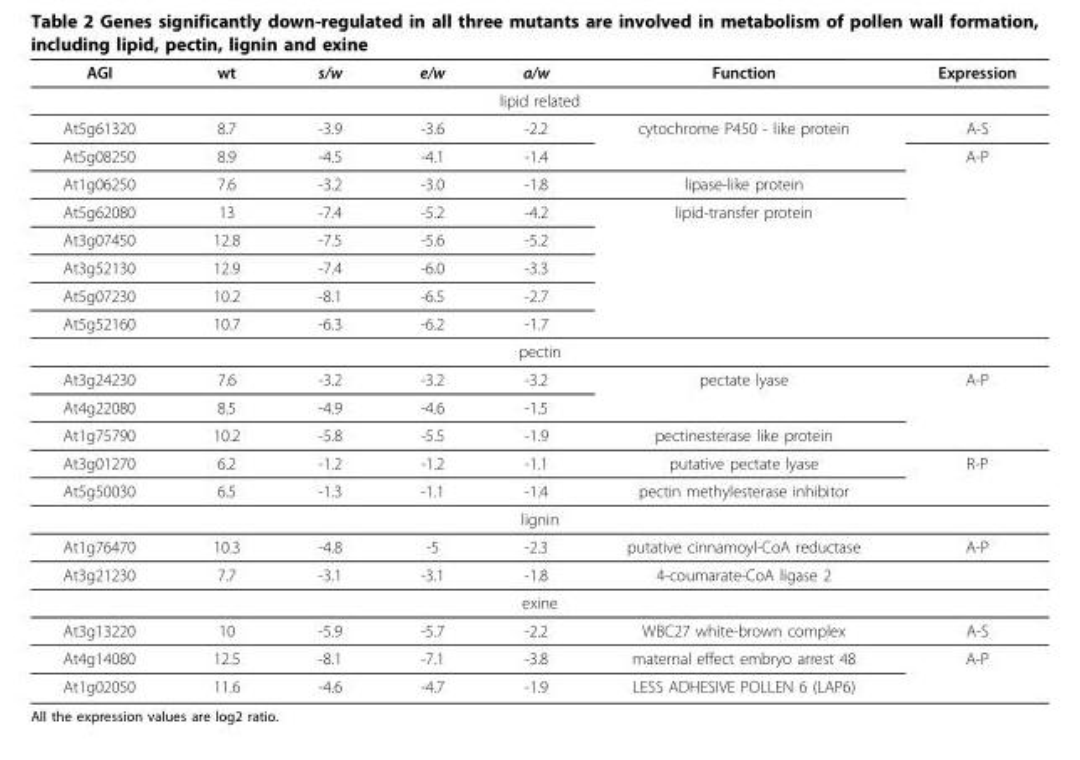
<table><thead><tr><td>AGI</td><td>wt</td><td>s/w</td><td>e/w</td><td>a/w</td><td>Function</td><td>Expression</td></tr></thead><tbody><tr><td colspan="7">lipid related</td></tr><tr><td>At5g61320</td><td>8.7</td><td>-3.9</td><td>-3.6</td><td>-2.2</td><td>cytochrome P450 - like protein</td><td>A-S</td></tr><tr><td>At5g08250</td><td>8.9</td><td>-4.5</td><td>-4.1</td><td>-1.4</td><td></td><td>A-P</td></tr><tr><td>At1g06250</td><td>7.6</td><td>-3.2</td><td>-3.0</td><td>-1.8</td><td>lipase-like protein</td><td></td></tr><tr><td>At5g62080</td><td>13</td><td>-7.4</td><td>-5.2</td><td>-4.2</td><td>lipid-transfer protein</td><td></td></tr><tr><td>At3g07450</td><td>12.8</td><td>-7.5</td><td>-5.6</td><td>-5.2</td><td></td><td></td></tr><tr><td>At3g52130</td><td>12.9</td><td>-7.4</td><td>-6.0</td><td>-3.3</td><td></td><td></td></tr><tr><td>At5g07230</td><td>10.2</td><td>-8.1</td><td>-6.5</td><td>-2.7</td><td></td><td></td></tr><tr><td>At5g52160</td><td>10.7</td><td>-6.3</td><td>-6.2</td><td>-1.7</td><td></td><td></td></tr><tr><td colspan="7">pectin</td></tr><tr><td>At3g24230</td><td>7.6</td><td>-3.2</td><td>-3.2</td><td>-3.2</td><td>pectate lyase</td><td>A-P</td></tr><tr><td>At4g22080</td><td>8.5</td><td>-4.9</td><td>-4.6</td><td>-1.5</td><td></td><td></td></tr><tr><td>At1g75790</td><td>10.2</td><td>-5.8</td><td>-5.5</td><td>-1.9</td><td>pectinesterase like protein</td><td></td></tr><tr><td>At3g01270</td><td>6.2</td><td>-1.2</td><td>-1.2</td><td>-1.1</td><td>putative pectate lyase</td><td>R-P</td></tr><tr><td>At5g50030</td><td>6.5</td><td>-1.3</td><td>-1.1</td><td>-1.4</td><td>pectin methylesterase inhibitor</td><td></td></tr><tr><td colspan="7">lignin</td></tr><tr><td>At1g76470</td><td>10.3</td><td>-4.8</td><td>-5</td><td>-2.3</td><td>putative cinnamoyl-CoA reductase</td><td>A-P</td></tr><tr><td>At3g21230</td><td>7.7</td><td>-3.1</td><td>-3.1</td><td>-1.8</td><td>4-coumarate-CoA ligase 2</td><td></td></tr><tr><td colspan="7">exine</td></tr><tr><td>At3g13220</td><td>10</td><td>-5.9</td><td>-5.7</td><td>-2.2</td><td>WBC27 white-brown complex</td><td>A-S</td></tr><tr><td>At4g14080</td><td>12.5</td><td>-8.1</td><td>-7.1</td><td>-3.8</td><td>maternal effect embryo arrest 48</td><td>A-P</td></tr><tr><td>At1g02050</td><td>11.6</td><td>-4.6</td><td>-4.7</td><td>-1.9</td><td>LESS ADHESIVE POLLEN 6 (LAP6)</td><td></td></tr></tbody></table>